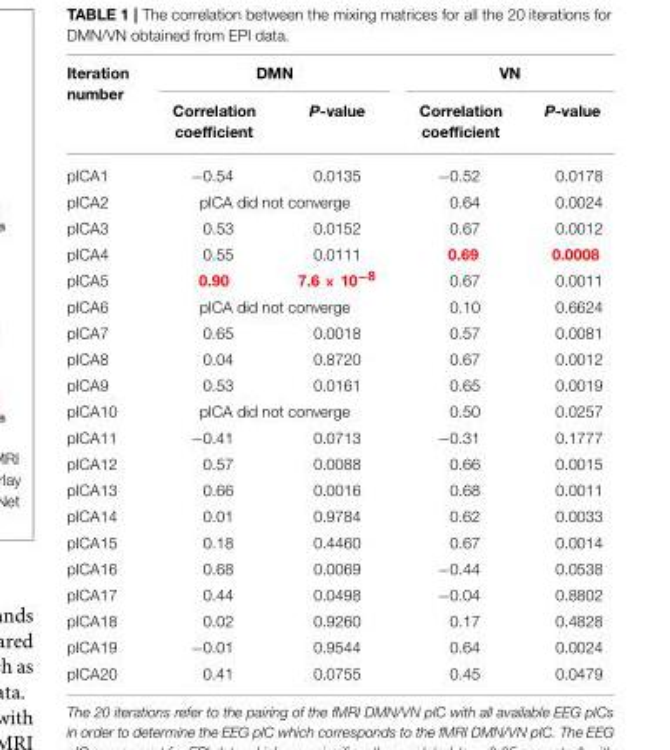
<table><thead><tr><td rowspan="2">Iteration number</td><td colspan="2">DMN</td><td colspan="2">VN</td></tr><tr><td>Correlation coefficient</td><td>P-value</td><td>Correlation coefficient</td><td>P-value</td></tr></thead><tbody><tr><td>pICA1</td><td>−0.54</td><td>0.0135</td><td>−0.52</td><td>0.0178</td></tr><tr><td>pICA2</td><td colspan="2">pICA did not converge</td><td>0.64</td><td>0.0024</td></tr><tr><td>pICA3</td><td>0.53</td><td>0.0152</td><td>0.67</td><td>0.0012</td></tr><tr><td>pICA4</td><td>0.55</td><td>0.0111</td><td>0.69</td><td>0.0008</td></tr><tr><td>pICA5</td><td>0.90</td><td>7.6 × 10<sup>−8</sup></td><td>0.67</td><td>0.0011</td></tr><tr><td>pICA6</td><td colspan="2">pICA did not converge</td><td>0.10</td><td>0.6624</td></tr><tr><td>pICA7</td><td>0.65</td><td>0.0018</td><td>0.57</td><td>0.0081</td></tr><tr><td>pICA8</td><td>0.04</td><td>0.8720</td><td>0.67</td><td>0.0012</td></tr><tr><td>pICA9</td><td>0.53</td><td>0.0161</td><td>0.65</td><td>0.0019</td></tr><tr><td>pICA10</td><td colspan="2">pICA did not converge</td><td>0.50</td><td>0.0257</td></tr><tr><td>pICA11</td><td>−0.41</td><td>0.0713</td><td>−0.31</td><td>0.1777</td></tr><tr><td>pICA12</td><td>0.57</td><td>0.0088</td><td>0.66</td><td>0.0015</td></tr><tr><td>pICA13</td><td>0.66</td><td>0.0016</td><td>0.68</td><td>0.0011</td></tr><tr><td>pICA14</td><td>0.01</td><td>0.9784</td><td>0.62</td><td>0.0033</td></tr><tr><td>pICA15</td><td>0.18</td><td>0.4460</td><td>0.67</td><td>0.0014</td></tr><tr><td>pICA16</td><td>0.68</td><td>0.0069</td><td>−0.44</td><td>0.0538</td></tr><tr><td>pICA17</td><td>0.44</td><td>0.0498</td><td>−0.04</td><td>0.8802</td></tr><tr><td>pICA18</td><td>0.02</td><td>0.9260</td><td>0.17</td><td>0.4828</td></tr><tr><td>pICA19</td><td>−0.01</td><td>0.9544</td><td>0.64</td><td>0.0024</td></tr><tr><td>pICA20</td><td>0.41</td><td>0.0755</td><td>0.45</td><td>0.0479</td></tr></tbody></table>